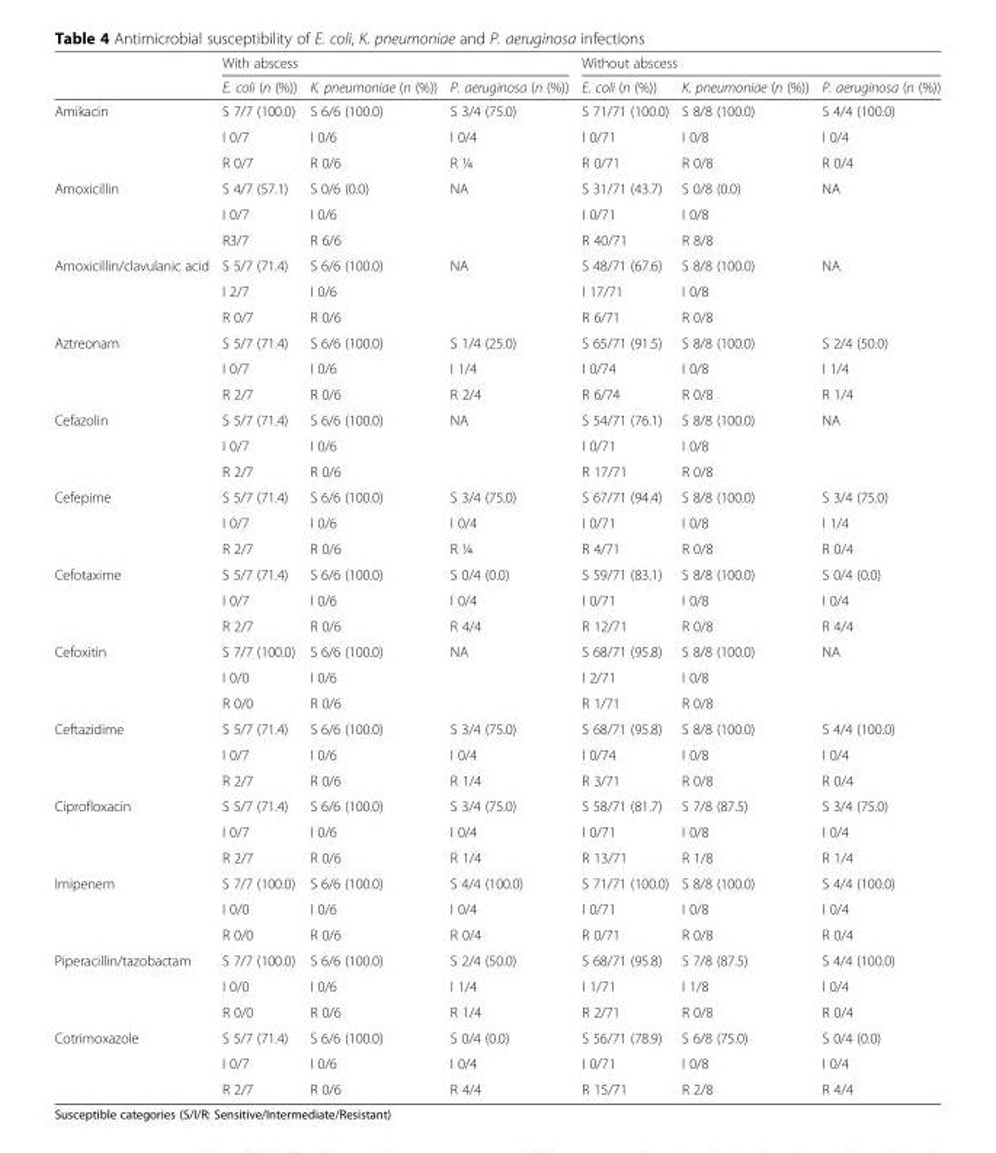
<table><thead><tr><td rowspan="2"></td><td colspan="3">With abscess</td><td colspan="3">Without abscess</td></tr><tr><td>E. coli (n (%))</td><td>K. pneumoniae (n (%))</td><td>P. aeruginosa (n (%))</td><td>E. coli (n (%))</td><td>K. pneumoniae (n (%))</td><td>P. aeruginosa (n (%))</td></tr></thead><tbody><tr><td rowspan="3">Amikacin</td><td>S 7/7 (100.0)</td><td>S 6/6 (100.0)</td><td>S 3/4 (75.0)</td><td>S 71/71 (100.0)</td><td>S 8/8 (100.0)</td><td>S 4/4 (100.0)</td></tr><tr><td>I 0/7</td><td>I 0/6</td><td>I 0/4</td><td>I 0/71</td><td>I 0/8</td><td>I 0/4</td></tr><tr><td>R 0/7</td><td>R 0/6</td><td>R ¼</td><td>R 0/71</td><td>R 0/8</td><td>R 0/4</td></tr><tr><td rowspan="3">Amoxicillin</td><td>S 4/7 (57.1)</td><td>S 0/6 (0.0)</td><td rowspan="3">NA</td><td>S 31/71 (43.7)</td><td>S 0/8 (0.0)</td><td rowspan="3">NA</td></tr><tr><td>I 0/7</td><td>I 0/6</td><td>I 0/71</td><td>I 0/8</td></tr><tr><td>R3/7</td><td>R 6/6</td><td>R 40/71</td><td>R 8/8</td></tr><tr><td rowspan="3">Amoxicillin/clavulanic acid</td><td>S 5/7 (71.4)</td><td>S 6/6 (100.0)</td><td rowspan="3">NA</td><td>S 48/71 (67.6)</td><td>S 8/8 (100.0)</td><td rowspan="3">NA</td></tr><tr><td>I 2/7</td><td>I 0/6</td><td>I 17/71</td><td>I 0/8</td></tr><tr><td>R 0/7</td><td>R 0/6</td><td>R 6/71</td><td>R 0/8</td></tr><tr><td rowspan="3">Aztreonam</td><td>S 5/7 (71.4)</td><td>S 6/6 (100.0)</td><td>S 1/4 (25.0)</td><td>S 65/71 (91.5)</td><td>S 8/8 (100.0)</td><td>S 2/4 (50.0)</td></tr><tr><td>I 0/7</td><td>I 0/6</td><td>I 1/4</td><td>I 0/74</td><td>I 0/8</td><td>I 1/4</td></tr><tr><td>R 2/7</td><td>R 0/6</td><td>R 2/4</td><td>R 6/74</td><td>R 0/8</td><td>R 1/4</td></tr><tr><td rowspan="3">Cefazolin</td><td>S 5/7 (71.4)</td><td>S 6/6 (100.0)</td><td rowspan="3">NA</td><td>S 54/71 (76.1)</td><td>S 8/8 (100.0)</td><td rowspan="3">NA</td></tr><tr><td>I 0/7</td><td>I 0/6</td><td>I 0/71</td><td>I 0/8</td></tr><tr><td>R 2/7</td><td>R 0/6</td><td>R 17/71</td><td>R 0/8</td></tr><tr><td rowspan="3">Cefepime</td><td>S 5/7 (71.4)</td><td>S 6/6 (100.0)</td><td>S 3/4 (75.0)</td><td>S 67/71 (94.4)</td><td>S 8/8 (100.0)</td><td>S 3/4 (75.0)</td></tr><tr><td>I 0/7</td><td>I 0/6</td><td>I 0/4</td><td>I 0/71</td><td>I 0/8</td><td>I 1/4</td></tr><tr><td>R 2/7</td><td>R 0/6</td><td>R ¼</td><td>R 4/71</td><td>R 0/8</td><td>R 0/4</td></tr><tr><td rowspan="3">Cefotaxime</td><td>S 5/7 (71.4)</td><td>S 6/6 (100.0)</td><td>S 0/4 (0.0)</td><td>S 59/71 (83.1)</td><td>S 8/8 (100.0)</td><td>S 0/4 (0.0)</td></tr><tr><td>I 0/7</td><td>I 0/6</td><td>I 0/4</td><td>I 0/71</td><td>I 0/8</td><td>I 0/4</td></tr><tr><td>R 2/7</td><td>R 0/6</td><td>R 4/4</td><td>R 12/71</td><td>R 0/8</td><td>R 4/4</td></tr><tr><td rowspan="3">Cefoxitin</td><td>S 7/7 (100.0)</td><td>S 6/6 (100.0)</td><td>NA</td><td>S 68/71 (95.8)</td><td>S 8/8 (100.0)</td><td rowspan="3">NA</td></tr><tr><td>I 0/0</td><td>I 0/6</td><td></td><td>I 2/71</td><td>I 0/8</td></tr><tr><td>R 0/0</td><td>R 0/6</td><td></td><td>R 1/71</td><td>R 0/8</td></tr><tr><td rowspan="3">Ceftazidime</td><td>S 5/7 (71.4)</td><td>S 6/6 (100.0)</td><td>S 3/4 (75.0)</td><td>S 68/71 (95.8)</td><td>S 8/8 (100.0)</td><td>S 4/4 (100.0)</td></tr><tr><td>I 0/7</td><td>I 0/6</td><td>I 0/4</td><td>I 0/74</td><td>I 0/8</td><td>I 0/4</td></tr><tr><td>R 2/7</td><td>R 0/6</td><td>R 1/4</td><td>R 3/71</td><td>R 0/8</td><td>R 0/4</td></tr><tr><td rowspan="3">Ciprofloxacin</td><td>S 5/7 (71.4)</td><td>S 6/6 (100.0)</td><td>S 3/4 (75.0)</td><td>S 58/71 (81.7)</td><td>S 7/8 (87.5)</td><td>S 3/4 (75.0)</td></tr><tr><td>I 0/7</td><td>I 0/6</td><td>I 0/4</td><td>I 0/71</td><td>I 0/8</td><td>I 0/4</td></tr><tr><td>R 2/7</td><td>R 0/6</td><td>R 1/4</td><td>R 13/71</td><td>R 1/8</td><td>R 1/4</td></tr><tr><td rowspan="3">Imipenem</td><td>S 7/7 (100.0)</td><td>S 6/6 (100.0)</td><td>S 4/4 (100.0)</td><td>S 71/71 (100.0)</td><td>S 8/8 (100.0)</td><td>S 4/4 (100.0)</td></tr><tr><td>I 0/0</td><td>I 0/6</td><td>I 0/4</td><td>I 0/71</td><td>I 0/8</td><td>I 0/4</td></tr><tr><td>R 0/0</td><td>R 0/6</td><td>R 0/4</td><td>R 0/71</td><td>R 0/8</td><td>R 0/4</td></tr><tr><td rowspan="3">Piperacillin/tazobactam</td><td>S 7/7 (100.0)</td><td>S 6/6 (100.0)</td><td>S 2/4 (50.0)</td><td>S 68/71 (95.8)</td><td>S 7/8 (87.5)</td><td>S 4/4 (100.0)</td></tr><tr><td>I 0/0</td><td>I 0/6</td><td>I 1/4</td><td>I 1/71</td><td>I 1/8</td><td>I 0/4</td></tr><tr><td>R 0/0</td><td>R 0/6</td><td>R 1/4</td><td>R 2/71</td><td>R 0/8</td><td>R 0/4</td></tr><tr><td rowspan="3">Cotrimoxazole</td><td>S 5/7 (71.4)</td><td>S 6/6 (100.0)</td><td>S 0/4 (0.0)</td><td>S 56/71 (78.9)</td><td>S 6/8 (75.0)</td><td>S 0/4 (0.0)</td></tr><tr><td>I 0/7</td><td>I 0/6</td><td>I 0/4</td><td>I 0/71</td><td>I 0/8</td><td>I 0/4</td></tr><tr><td>R 2/7</td><td>R 0/6</td><td>R 4/4</td><td>R 15/71</td><td>R 2/8</td><td>R 4/4</td></tr></tbody></table>